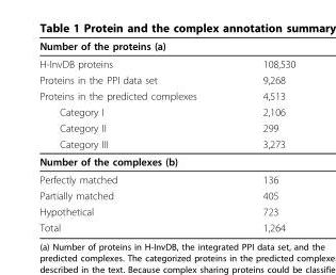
<table><thead><tr><td>Number of the proteins (a)</td><td></td></tr></thead><tbody><tr><td>H-InvDB proteins</td><td>108,530</td></tr><tr><td>Proteins in the PPI data set</td><td>9,268</td></tr><tr><td>Proteins in the predicted complexes</td><td>4,513</td></tr><tr><td>Category I</td><td>2,106</td></tr><tr><td>Category II</td><td>299</td></tr><tr><td>Category III</td><td>3,273</td></tr><tr><td colspan="2">Number of the complexes (b)</td></tr><tr><td>Perfectly matched</td><td>136</td></tr><tr><td>Partially matched</td><td>405</td></tr><tr><td>Hypothetical</td><td>723</td></tr><tr><td>Total</td><td>1,264</td></tr></tbody></table>